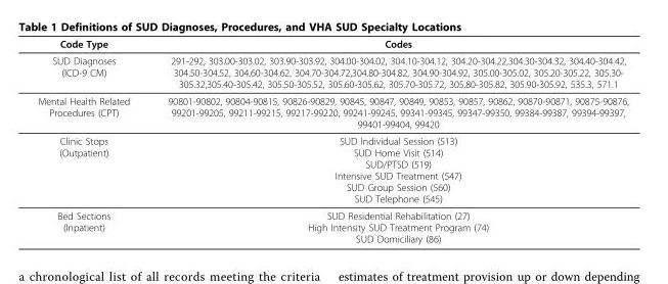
<table><thead><tr><td>Code Type</td><td>Codes</td></tr></thead><tbody><tr><td>SUD Diagnoses (ICD-9 CM)</td><td>291-292, 303.00-303.02, 303.90-303.92, 304.00-304.02, 304.10-304.12, 304.20-304.22,304.30-304.32, 304.40-304.42, 304.50-304.52, 304.60-304.62, 304.70-304.72,304.80-304.82, 304.90-304.92, 305.00-305.02, 305.20-305.22, 305.30- 305.32,305.40-305.42, 305.50-305.52, 305.60-305.62, 305.70-305.72, 305.80-305.82, 305.90-305.92, 535.3, 571.1</td></tr><tr><td>Mental Health Related Procedures (CPT)</td><td>90801-90802, 90804-90815, 90826-90829, 90845, 90847, 90849, 90853, 90857, 90862, 90870-90871, 90875-90876, 99201-99205, 99211-99215, 99217-99220, 99241-99245, 99341-99345, 99347-99350, 99384-99387, 99394-99397, 99401-99404, 99420</td></tr><tr><td>Clinic Stops (Outpatient)</td><td>SUD Individual Session (513) SUD Home Visit (514) SUD/PTSD (519) Intensive SUD Treatment (547) SUD Group Session (560) SUD Telephone (545)</td></tr><tr><td>Bed Sections (Inpatient)</td><td>SUD Residential Rehabilitation (27) High Intensity SUD Treatment Program (74) SUD Domiciliary (86)</td></tr></tbody></table>